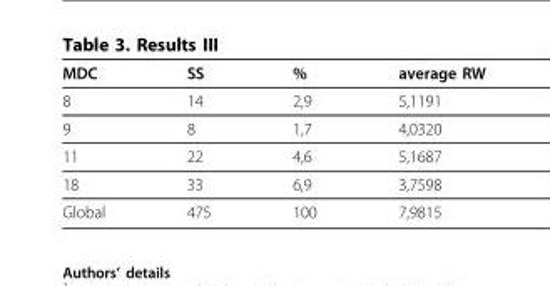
<table><thead><tr><td>MDC</td><td>SS</td><td>%</td><td>average RW</td></tr></thead><tbody><tr><td>8</td><td>14</td><td>2,9</td><td>5,1191</td></tr><tr><td>9</td><td>8</td><td>1,7</td><td>4,0320</td></tr><tr><td>11</td><td>22</td><td>4,6</td><td>5,1687</td></tr><tr><td>18</td><td>33</td><td>6,9</td><td>3,7598</td></tr><tr><td>Global</td><td>475</td><td>100</td><td>7,9815</td></tr></tbody></table>